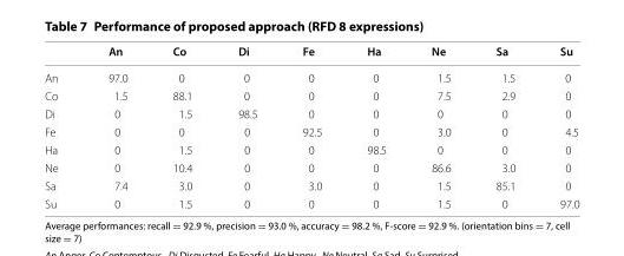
<table><thead><tr><td></td><td>An</td><td>Co</td><td>Di</td><td>Fe</td><td>Ha</td><td>Ne</td><td>Sa</td><td>Su</td></tr></thead><tbody><tr><td>An</td><td>97.0</td><td>0</td><td>0</td><td>0</td><td>0</td><td>1.5</td><td>1.5</td><td>0</td></tr><tr><td>Co</td><td>1.5</td><td>88.1</td><td>0</td><td>0</td><td>0</td><td>7.5</td><td>2.9</td><td>0</td></tr><tr><td>Di</td><td>0</td><td>1.5</td><td>98.5</td><td>0</td><td>0</td><td>0</td><td>0</td><td>0</td></tr><tr><td>Fe</td><td>0</td><td>0</td><td>0</td><td>92.5</td><td>0</td><td>3.0</td><td>0</td><td>4.5</td></tr><tr><td>Ha</td><td>0</td><td>1.5</td><td>0</td><td>0</td><td>98.5</td><td>0</td><td>0</td><td>0</td></tr><tr><td>Ne</td><td>0</td><td>10.4</td><td>0</td><td>0</td><td>0</td><td>86.6</td><td>3.0</td><td>0</td></tr><tr><td>Sa</td><td>7.4</td><td>3.0</td><td>0</td><td>3.0</td><td>0</td><td>1.5</td><td>85.1</td><td>0</td></tr><tr><td>Su</td><td>0</td><td>1.5</td><td>0</td><td>0</td><td>0</td><td>1.5</td><td>0</td><td>97.0</td></tr></tbody></table>